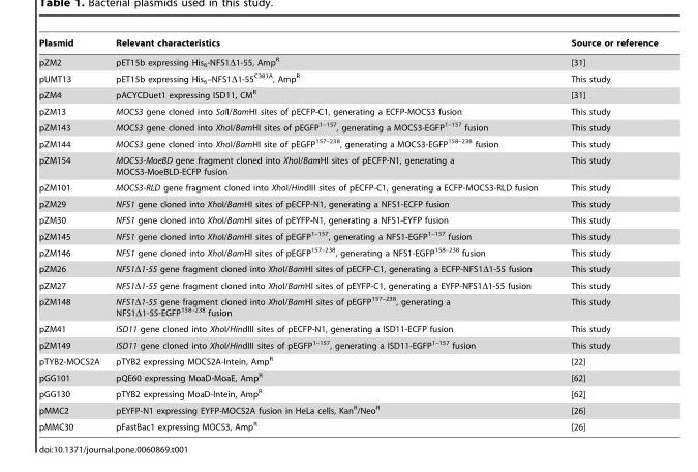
<table><thead><tr><td>Plasmid</td><td>Relevant characteristics</td><td>Source or reference</td></tr></thead><tbody><tr><td>pZM2</td><td>pET15b expressing His<sub>6</sub>-NFS1Δ1-55, Amp<sup>R</sup></td><td>[31]</td></tr><tr><td>pUMT13</td><td>pET15b expressing His<sub>6</sub>–NFS1Δ1-55<sup>C381A</sup>, Amp<sup>R</sup></td><td>This study</td></tr><tr><td>pZM4</td><td>pACYCDuet1 expressing ISD11, CM<sup>R</sup></td><td>[31]</td></tr><tr><td>pZM13</td><td>MOCS3 gene cloned into SalI/BamHI sites of pECFP-C1, generating a ECFP-MOCS3 fusion</td><td>This study</td></tr><tr><td>pZM143</td><td>MOCS3 gene cloned into XhoI/BamHI sites of pEGFP<sup>1–157</sup>, generating a MOCS3-EGFP<sup>1–157</sup> fusion</td><td>This study</td></tr><tr><td>pZM144</td><td>MOCS3 gene cloned into XhoI/BamHI site of pEGFP<sup>157–238</sup>, generating a MOCS3-EGFP<sup>158–238</sup> fusion</td><td>This study</td></tr><tr><td>pZM154</td><td>MOCS3-MoeBD gene fragment cloned into XhoI/BamHI sites of pECFP-N1, generating a MOCS3-MoeBLD-ECFP fusion</td><td>This study</td></tr><tr><td>pZM101</td><td>MOCS3-RLD gene fragment cloned into XhoI/HindIII sites of pECFP-C1, generating a ECFP-MOCS3-RLD fusion</td><td>This study</td></tr><tr><td>pZM29</td><td>NFS1 gene cloned into XhoI/BamHI sites of pECFP-N1, generating a NFS1-ECFP fusion</td><td>This study</td></tr><tr><td>pZM30</td><td>NFS1 gene cloned into XhoI/BamHI sites of pEYFP-N1, generating a NFS1-EYFP fusion</td><td>This study</td></tr><tr><td>pZM145</td><td>NFS1 gene cloned into XhoI/BamHI sites of pEGFP<sup>1–157</sup>, generating a NFS1-EGFP<sup>1–157</sup> fusion</td><td>This study</td></tr><tr><td>pZM146</td><td>NFS1 gene cloned into XhoI/BamHI sites of pEGFP<sup>157–238</sup>, generating a NFS1-EGFP<sup>158–238</sup> fusion</td><td>This study</td></tr><tr><td>pZM26</td><td>NFS1Δ1-55 gene fragment cloned into XhoI/BamHI sites of pECFP-C1, generating a ECFP-NFS1Δ1-55 fusion</td><td>This study</td></tr><tr><td>pZM27</td><td>NFS1Δ1-55 gene fragment cloned into XhoI/BamHI sites of pEYFP-C1, generating a EYFP-NFS1Δ1-55 fusion</td><td>This study</td></tr><tr><td>pZM148</td><td>NFS1Δ1-55 gene fragment cloned into XhoI/BamHI sites of pEGFP<sup>157–238</sup>, generating a NFS1Δ1-55-EGFP<sup>158–238</sup> fusion</td><td>This study</td></tr><tr><td>pZM41</td><td>ISD11 gene cloned into XhoI/HindIII sites of pECFP-N1, generating a ISD11-ECFP fusion</td><td>This study</td></tr><tr><td>pZM149</td><td>ISD11 gene cloned into XhoI/HindIII sites of pEGFP<sup>1–157</sup>, generating a ISD11-EGFP<sup>1–157</sup> fusion</td><td>This study</td></tr><tr><td>pTYB2-MOCS2A</td><td>pTYB2 expressing MOCS2A-Intein, Amp<sup>R</sup></td><td>[22]</td></tr><tr><td>pGG101</td><td>pQE60 expressing MoaD-MoaE, Amp<sup>R</sup></td><td>[62]</td></tr><tr><td>pGG130</td><td>pTYB2 expressing MoaD-Intein, Amp<sup>R</sup></td><td>[62]</td></tr><tr><td>pMMC2</td><td>pEYFP-N1 expressing EYFP-MOCS2A fusion in HeLa cells, Kan<sup>R</sup>/Neo<sup>R</sup></td><td>[26]</td></tr><tr><td>pMMC30</td><td>pFastBac1 expressing MOCS3, Amp<sup>R</sup></td><td>[26]</td></tr></tbody></table>